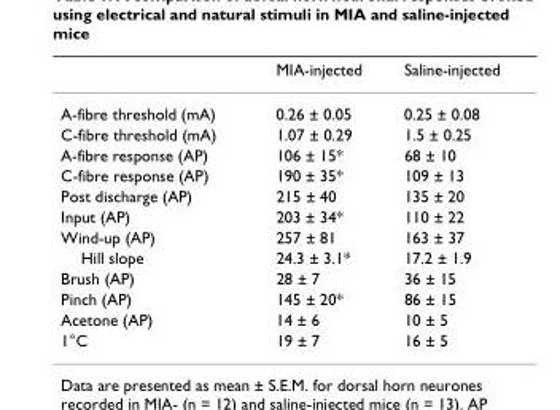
<table><thead><tr><td></td><td>MIA-injected</td><td>Saline-injected</td></tr></thead><tbody><tr><td>A-fibre threshold (mA)</td><td>0.26 ± 0.05</td><td>0.25 ± 0.08</td></tr><tr><td>C-fibre threshold (mA)</td><td>1.07 ± 0.29</td><td>1.5 ± 0.25</td></tr><tr><td>A-fibre response (AP)</td><td>106 ± 15*</td><td>68 ± 10</td></tr><tr><td>C-fibre response (AP)</td><td>190 ± 35*</td><td>109 ± 13</td></tr><tr><td>Post discharge (AP)</td><td>215 ± 40</td><td>135 ± 20</td></tr><tr><td>Input (AP)</td><td>203 ± 34*</td><td>110 ± 22</td></tr><tr><td>Wind-up (AP)</td><td>257 ± 81</td><td>163 ± 37</td></tr><tr><td>Hill slope</td><td>24.3 ± 3.1*</td><td>17.2 ± 1.9</td></tr><tr><td>Brush (AP)</td><td>28 ± 7</td><td>36 ± 15</td></tr><tr><td>Pinch (AP)</td><td>145 ± 20*</td><td>86 ± 15</td></tr><tr><td>Acetone (AP)</td><td>14 ± 6</td><td>10 ± 5</td></tr><tr><td>1°C</td><td>19 ± 7</td><td>16 ± 5</td></tr></tbody></table>